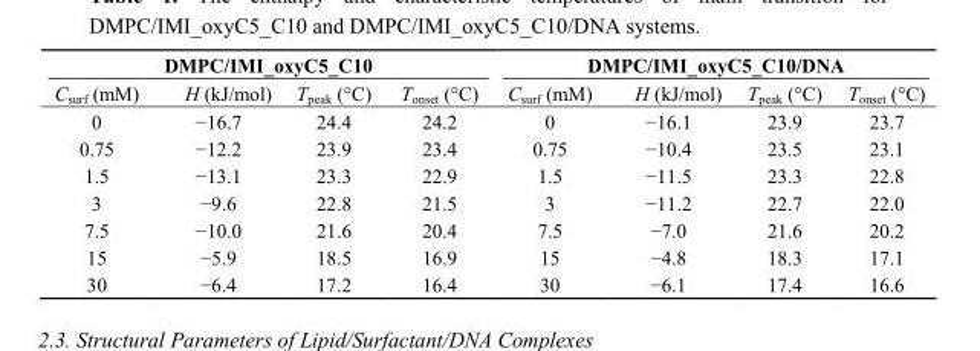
<table><thead><tr><td colspan="4">DMPC/IMI_oxyC5_C10</td><td colspan="4">DMPC/IMI_oxyC5_C10/DNA</td></tr><tr><td>C<sub>surf</sub> (mM)</td><td>H (kJ/mol)</td><td>T<sub>peak</sub> (°C)</td><td>T<sub>onset</sub> (°C)</td><td>C<sub>surf</sub> (mM)</td><td>H (kJ/mol)</td><td>T<sub>peak</sub> (°C)</td><td>T<sub>onset</sub> (°C)</td></tr></thead><tbody><tr><td>0</td><td>−16.7</td><td>24.4</td><td>24.2</td><td>0</td><td>−16.1</td><td>23.9</td><td>23.7</td></tr><tr><td>0.75</td><td>−12.2</td><td>23.9</td><td>23.4</td><td>0.75</td><td>−10.4</td><td>23.5</td><td>23.1</td></tr><tr><td>1.5</td><td>−13.1</td><td>23.3</td><td>22.9</td><td>1.5</td><td>−11.5</td><td>23.3</td><td>22.8</td></tr><tr><td>3</td><td>−9.6</td><td>22.8</td><td>21.5</td><td>3</td><td>−11.2</td><td>22.7</td><td>22.0</td></tr><tr><td>7.5</td><td>−10.0</td><td>21.6</td><td>20.4</td><td>7.5</td><td>−7.0</td><td>21.6</td><td>20.2</td></tr><tr><td>15</td><td>−5.9</td><td>18.5</td><td>16.9</td><td>15</td><td>−4.8</td><td>18.3</td><td>17.1</td></tr><tr><td>30</td><td>−6.4</td><td>17.2</td><td>16.4</td><td>30</td><td>−6.1</td><td>17.4</td><td>16.6</td></tr></tbody></table>